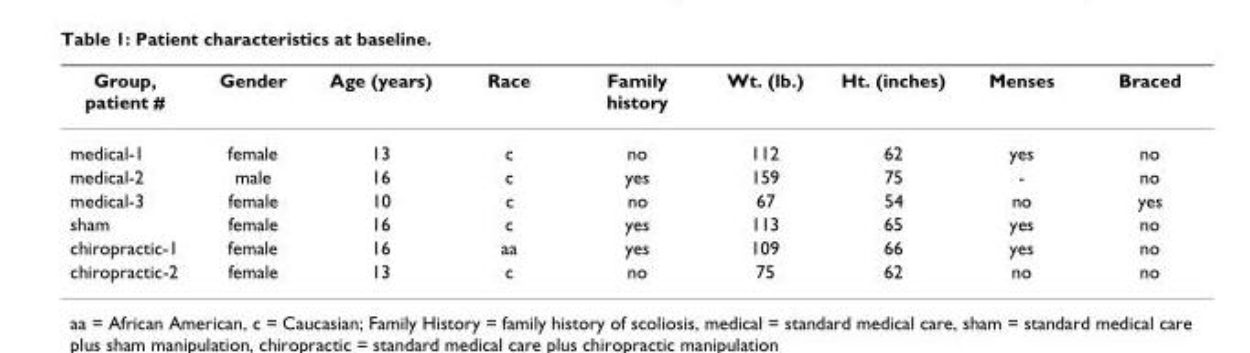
<table><thead><tr><td>Group, patient #</td><td>Gender</td><td>Age (years)</td><td>Race</td><td>Family history</td><td>Wt. (lb.)</td><td>Ht. (inches)</td><td>Menses</td><td>Braced</td></tr></thead><tbody><tr><td>medical-1</td><td>female</td><td>13</td><td>c</td><td>no</td><td>112</td><td>62</td><td>yes</td><td>no</td></tr><tr><td>medical-2</td><td>male</td><td>16</td><td>c</td><td>yes</td><td>159</td><td>75</td><td>-</td><td>no</td></tr><tr><td>medical-3</td><td>female</td><td>10</td><td>c</td><td>no</td><td>67</td><td>54</td><td>no</td><td>yes</td></tr><tr><td>sham</td><td>female</td><td>16</td><td>c</td><td>yes</td><td>113</td><td>65</td><td>yes</td><td>no</td></tr><tr><td>chiropractic-1</td><td>female</td><td>16</td><td>aa</td><td>yes</td><td>109</td><td>66</td><td>yes</td><td>no</td></tr><tr><td>chiropractic-2</td><td>female</td><td>13</td><td>c</td><td>no</td><td>75</td><td>62</td><td>no</td><td>no</td></tr></tbody></table>